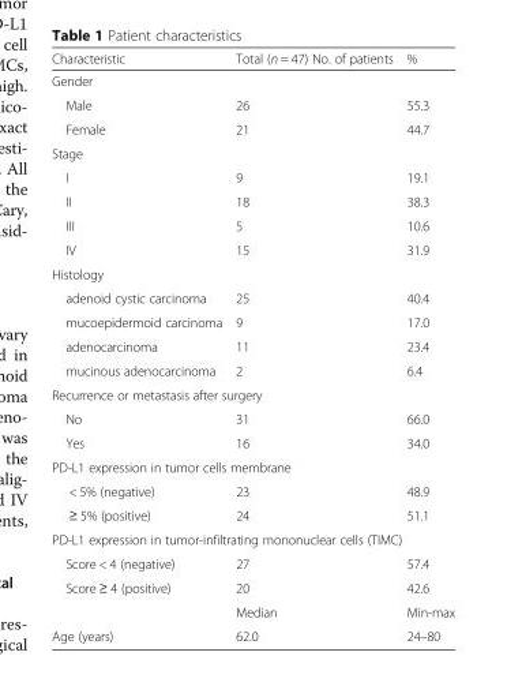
<table><thead><tr><td>Characteristic</td><td>Total (n = 47) No. of patients</td><td>%</td></tr></thead><tbody><tr><td colspan="3">Gender</td></tr><tr><td>Male</td><td>26</td><td>55.3</td></tr><tr><td>Female</td><td>21</td><td>44.7</td></tr><tr><td colspan="3">Stage</td></tr><tr><td>I</td><td>9</td><td>19.1</td></tr><tr><td>II</td><td>18</td><td>38.3</td></tr><tr><td>III</td><td>5</td><td>10.6</td></tr><tr><td>IV</td><td>15</td><td>31.9</td></tr><tr><td colspan="3">Histology</td></tr><tr><td>adenoid cystic carcinoma</td><td>25</td><td>40.4</td></tr><tr><td>mucoepidermoid carcinoma</td><td>9</td><td>17.0</td></tr><tr><td>adenocarcinoma</td><td>11</td><td>23.4</td></tr><tr><td>mucinous adenocarcinoma</td><td>2</td><td>6.4</td></tr><tr><td colspan="3">Recurrence or metastasis after surgery</td></tr><tr><td>No</td><td>31</td><td>66.0</td></tr><tr><td>Yes</td><td>16</td><td>34.0</td></tr><tr><td colspan="3">PD-L1 expression in tumor cells membrane</td></tr><tr><td>&lt; 5% (negative)</td><td>23</td><td>48.9</td></tr><tr><td>≥ 5% (positive)</td><td>24</td><td>51.1</td></tr><tr><td colspan="3">PD-L1 expression in tumor-infiltrating mononuclear cells (TIMC)</td></tr><tr><td>Score &lt; 4 (negative)</td><td>27</td><td>57.4</td></tr><tr><td rowspan="2">Score ≥ 4 (positive)</td><td>20</td><td>42.6</td></tr><tr><td>Median</td><td>Min-max</td></tr><tr><td>Age (years)</td><td>62.0</td><td>24–80</td></tr></tbody></table>